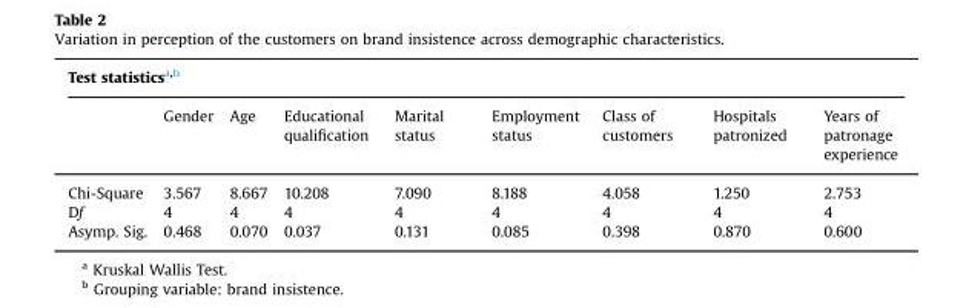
<table><thead><tr><td colspan="9">Test statistics<sup>a,b</sup></td></tr><tr><td></td><td>Gender</td><td>Age</td><td>Educational qualification</td><td>Marital status</td><td>Employment status</td><td>Class of customers</td><td>Hospitals patronized</td><td>Years of patronage experience</td></tr></thead><tbody><tr><td>Chi-Square</td><td>3.567</td><td>8.667</td><td>10.208</td><td>7.090</td><td>8.188</td><td>4.058</td><td>1.250</td><td>2.753</td></tr><tr><td>Df</td><td>4</td><td>4</td><td>4</td><td>4</td><td>4</td><td>4</td><td>4</td><td>4</td></tr><tr><td>Asymp. Sig.</td><td>0.468</td><td>0.070</td><td>0.037</td><td>0.131</td><td>0.085</td><td>0.398</td><td>0.870</td><td>0.600</td></tr></tbody></table>